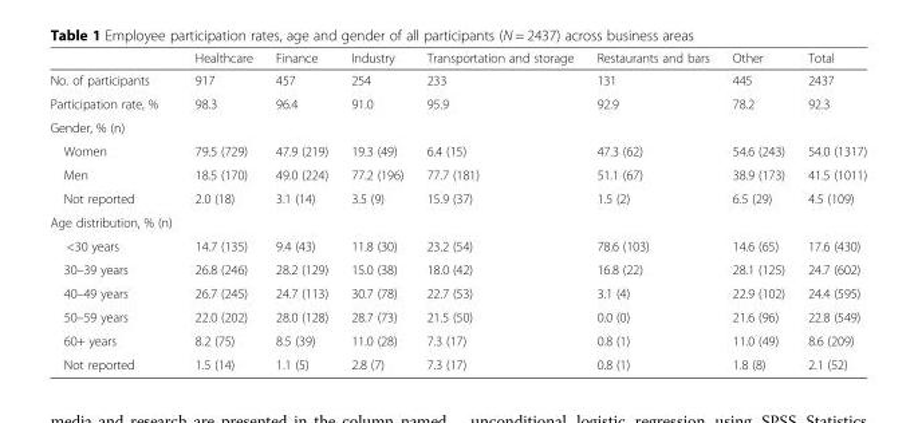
<table><thead><tr><td></td><td>Healthcare</td><td>Finance</td><td>Industry</td><td>Transportation and storage</td><td>Restaurants and bars</td><td>Other</td><td>Total</td></tr></thead><tbody><tr><td>No. of participants</td><td>917</td><td>457</td><td>254</td><td>233</td><td>131</td><td>445</td><td>2437</td></tr><tr><td>Participation rate, %</td><td>98.3</td><td>96.4</td><td>91.0</td><td>95.9</td><td>92.9</td><td>78.2</td><td>92.3</td></tr><tr><td colspan="8">Gender, % (n)</td></tr><tr><td>Women</td><td>79.5 (729)</td><td>47.9 (219)</td><td>19.3 (49)</td><td>6.4 (15)</td><td>47.3 (62)</td><td>54.6 (243)</td><td>54.0 (1317)</td></tr><tr><td>Men</td><td>18.5 (170)</td><td>49.0 (224)</td><td>77.2 (196)</td><td>77.7 (181)</td><td>51.1 (67)</td><td>38.9 (173)</td><td>41.5 (1011)</td></tr><tr><td>Not reported</td><td>2.0 (18)</td><td>3.1 (14)</td><td>3.5 (9)</td><td>15.9 (37)</td><td>1.5 (2)</td><td>6.5 (29)</td><td>4.5 (109)</td></tr><tr><td colspan="8">Age distribution, % (n)</td></tr><tr><td>&lt;30 years</td><td>14.7 (135)</td><td>9.4 (43)</td><td>11.8 (30)</td><td>23.2 (54)</td><td>78.6 (103)</td><td>14.6 (65)</td><td>17.6 (430)</td></tr><tr><td>30–39 years</td><td>26.8 (246)</td><td>28.2 (129)</td><td>15.0 (38)</td><td>18.0 (42)</td><td>16.8 (22)</td><td>28.1 (125)</td><td>24.7 (602)</td></tr><tr><td>40–49 years</td><td>26.7 (245)</td><td>24.7 (113)</td><td>30.7 (78)</td><td>22.7 (53)</td><td>3.1 (4)</td><td>22.9 (102)</td><td>24.4 (595)</td></tr><tr><td>50–59 years</td><td>22.0 (202)</td><td>28.0 (128)</td><td>28.7 (73)</td><td>21.5 (50)</td><td>0.0 (0)</td><td>21.6 (96)</td><td>22.8 (549)</td></tr><tr><td>60+ years</td><td>8.2 (75)</td><td>8.5 (39)</td><td>11.0 (28)</td><td>7.3 (17)</td><td>0.8 (1)</td><td>11.0 (49)</td><td>8.6 (209)</td></tr><tr><td>Not reported</td><td>1.5 (14)</td><td>1.1 (5)</td><td>2.8 (7)</td><td>7.3 (17)</td><td>0.8 (1)</td><td>1.8 (8)</td><td>2.1 (52)</td></tr></tbody></table>